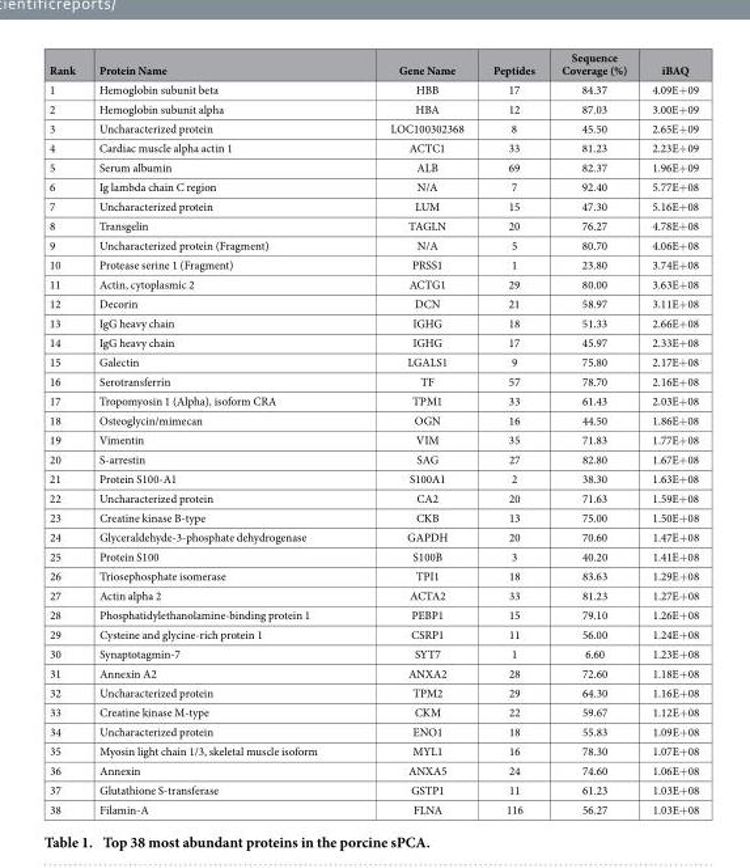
<table><thead><tr><td>Rank</td><td>Protein Name</td><td>Gene Name</td><td>Peptides</td><td>Sequence Coverage (%)</td><td>iBAQ</td></tr></thead><tbody><tr><td>1</td><td>Hemoglobin subunit beta</td><td>HBB</td><td>17</td><td>84.37</td><td>4.09E+ 09</td></tr><tr><td>2</td><td>Hemoglobin subunit alpha</td><td>HBA</td><td>12</td><td>87.03</td><td>3.00E+ 09</td></tr><tr><td>3</td><td>Uncharacterized protein</td><td>LOC100302368</td><td>8</td><td>45.50</td><td>2.65E+ 09</td></tr><tr><td>4</td><td>Cardiac muscle alpha actin 1</td><td>ACTC1</td><td>33</td><td>81.23</td><td>2.23E+ 09</td></tr><tr><td>5</td><td>Serum albumin</td><td>ALB</td><td>69</td><td>82.37</td><td>1.96E+ 09</td></tr><tr><td>6</td><td>Ig lambda chain C region</td><td>N/A</td><td>7</td><td>92.40</td><td>5.77E+ 08</td></tr><tr><td>7</td><td>Uncharacterized protein</td><td>LUM</td><td>15</td><td>47.30</td><td>5.16E+ 08</td></tr><tr><td>8</td><td>Transgelin</td><td>TAGLN</td><td>20</td><td>76.27</td><td>4.78E+ 08</td></tr><tr><td>9</td><td>Uncharacterized protein (Fragment)</td><td>N/A</td><td>5</td><td>80.70</td><td>4.06E+ 08</td></tr><tr><td>10</td><td>Protease serine 1 (Fragment)</td><td>PRSS1</td><td>1</td><td>23.80</td><td>3.74E+ 08</td></tr><tr><td>11</td><td>Actin, cytoplasmic 2</td><td>ACTG1</td><td>29</td><td>80.00</td><td>3.63E+ 08</td></tr><tr><td>12</td><td>Decorin</td><td>DCN</td><td>21</td><td>58.97</td><td>3.11E+ 08</td></tr><tr><td>13</td><td>IgG heavy chain</td><td>IGHG</td><td>18</td><td>51.33</td><td>2.66E+ 08</td></tr><tr><td>14</td><td>IgG heavy chain</td><td>IGHG</td><td>17</td><td>45.97</td><td>2.33E+ 08</td></tr><tr><td>15</td><td>Galectin</td><td>LGALS1</td><td>9</td><td>75.80</td><td>2.17E+ 08</td></tr><tr><td>16</td><td>Serotransferrin</td><td>TF</td><td>57</td><td>78.70</td><td>2.16E+ 08</td></tr><tr><td>17</td><td>Tropomyosin 1 (Alpha), isoform CRA</td><td>TPM1</td><td>33</td><td>61.43</td><td>2.03E+ 08</td></tr><tr><td>18</td><td>Osteoglycin/mimecan</td><td>OGN</td><td>16</td><td>44.50</td><td>1.86E+ 08</td></tr><tr><td>19</td><td>Vimentin</td><td>VIM</td><td>35</td><td>71.83</td><td>1.77E+ 08</td></tr><tr><td>20</td><td>S-arrestin</td><td>SAG</td><td>27</td><td>82.80</td><td>1.67E+ 08</td></tr><tr><td>21</td><td>Protein S100-A1</td><td>S100A1</td><td>2</td><td>38.30</td><td>1.63E+ 08</td></tr><tr><td>22</td><td>Uncharacterized protein</td><td>CA2</td><td>20</td><td>71.63</td><td>1.59E+ 08</td></tr><tr><td>23</td><td>Creatine kinase B-type</td><td>CKB</td><td>13</td><td>75.00</td><td>1.50E+ 08</td></tr><tr><td>24</td><td>Glyceraldehyde-3-phosphate dehydrogenase</td><td>GAPDH</td><td>20</td><td>70.60</td><td>1.47E+ 08</td></tr><tr><td>25</td><td>Protein S100</td><td>S100B</td><td>3</td><td>40.20</td><td>1.41E+ 08</td></tr><tr><td>26</td><td>Triosephosphate isomerase</td><td>TPI1</td><td>18</td><td>83.63</td><td>1.29E+ 08</td></tr><tr><td>27</td><td>Actin alpha 2</td><td>ACTA2</td><td>33</td><td>81.23</td><td>1.27E+ 08</td></tr><tr><td>28</td><td>Phosphatidylethanolamine-binding protein 1</td><td>PEBP1</td><td>15</td><td>79.10</td><td>1.26E+ 08</td></tr><tr><td>29</td><td>Cysteine and glycine-rich protein 1</td><td>CSRP1</td><td>11</td><td>56.00</td><td>1.24E+ 08</td></tr><tr><td>30</td><td>Synaptotagmin-7</td><td>SYT7</td><td>1</td><td>6.60</td><td>1.23E+ 08</td></tr><tr><td>31</td><td>Annexin A2</td><td>ANXA2</td><td>28</td><td>72.60</td><td>1.18E+ 08</td></tr><tr><td>32</td><td>Uncharacterized protein</td><td>TPM2</td><td>29</td><td>64.30</td><td>1.16E+ 08</td></tr><tr><td>33</td><td>Creatine kinase M-type</td><td>CKM</td><td>22</td><td>59.67</td><td>1.12E+ 08</td></tr><tr><td>34</td><td>Uncharacterized protein</td><td>ENO1</td><td>18</td><td>55.83</td><td>1.09E+ 08</td></tr><tr><td>35</td><td>Myosin light chain 1/3, skeletal muscle isoform</td><td>MYL1</td><td>16</td><td>78.30</td><td>1.07E+ 08</td></tr><tr><td>36</td><td>Annexin</td><td>ANXA5</td><td>24</td><td>74.60</td><td>1.06E+ 08</td></tr><tr><td>37</td><td>Glutathione S-transferase</td><td>GSTP1</td><td>11</td><td>61.23</td><td>1.03E+ 08</td></tr><tr><td>38</td><td>Filamin-A</td><td>FLNA</td><td>116</td><td>56.27</td><td>1.03E+ 08</td></tr></tbody></table>